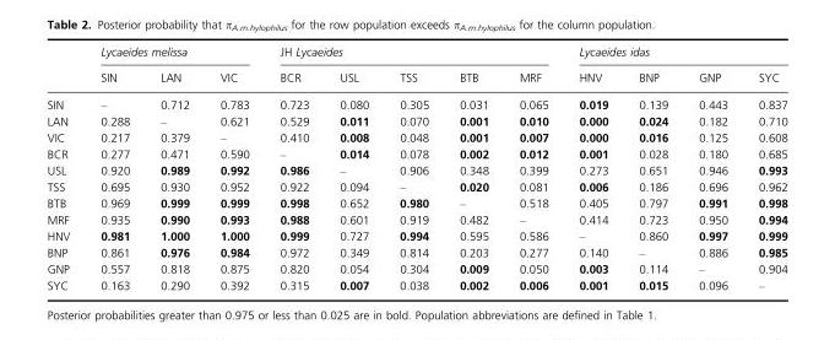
<table><thead><tr><td rowspan="2"></td><td colspan="3">Lycaeides melissa</td><td colspan="5">JH Lycaeides</td><td colspan="4">Lycaeides idas</td></tr><tr><td>SIN</td><td>LAN</td><td>VIC</td><td>BCR</td><td>USL</td><td>TSS</td><td>BTB</td><td>MRF</td><td>HNV</td><td>BNP</td><td>GNP</td><td>SYC</td></tr></thead><tbody><tr><td>SIN</td><td>–</td><td>0.712</td><td>0.783</td><td>0.723</td><td>0.080</td><td>0.305</td><td>0.031</td><td>0.065</td><td>0.019</td><td>0.139</td><td>0.443</td><td>0.837</td></tr><tr><td>LAN</td><td>0.288</td><td>–</td><td>0.621</td><td>0.529</td><td>0.011</td><td>0.070</td><td>0.001</td><td>0.010</td><td>0.000</td><td>0.024</td><td>0.182</td><td>0.710</td></tr><tr><td>VIC</td><td>0.217</td><td>0.379</td><td>–</td><td>0.410</td><td>0.008</td><td>0.048</td><td>0.001</td><td>0.007</td><td>0.000</td><td>0.016</td><td>0.125</td><td>0.608</td></tr><tr><td>BCR</td><td>0.277</td><td>0.471</td><td>0.590</td><td>–</td><td>0.014</td><td>0.078</td><td>0.002</td><td>0.012</td><td>0.001</td><td>0.028</td><td>0.180</td><td>0.685</td></tr><tr><td>USL</td><td>0.920</td><td>0.989</td><td>0.992</td><td>0.986</td><td>–</td><td>0.906</td><td>0.348</td><td>0.399</td><td>0.273</td><td>0.651</td><td>0.946</td><td>0.993</td></tr><tr><td>TSS</td><td>0.695</td><td>0.930</td><td>0.952</td><td>0.922</td><td>0.094</td><td>–</td><td>0.020</td><td>0.081</td><td>0.006</td><td>0.186</td><td>0.696</td><td>0.962</td></tr><tr><td>BTB</td><td>0.969</td><td>0.999</td><td>0.999</td><td>0.998</td><td>0.652</td><td>0.980</td><td>–</td><td>0.518</td><td>0.405</td><td>0.797</td><td>0.991</td><td>0.998</td></tr><tr><td>MRF</td><td>0.935</td><td>0.990</td><td>0.993</td><td>0.988</td><td>0.601</td><td>0.919</td><td>0.482</td><td>–</td><td>0.414</td><td>0.723</td><td>0.950</td><td>0.994</td></tr><tr><td>HNV</td><td>0.981</td><td>1.000</td><td>1.000</td><td>0.999</td><td>0.727</td><td>0.994</td><td>0.595</td><td>0.586</td><td>–</td><td>0.860</td><td>0.997</td><td>0.999</td></tr><tr><td>BNP</td><td>0.861</td><td>0.976</td><td>0.984</td><td>0.972</td><td>0.349</td><td>0.814</td><td>0.203</td><td>0.277</td><td>0.140</td><td>–</td><td>0.886</td><td>0.985</td></tr><tr><td>GNP</td><td>0.557</td><td>0.818</td><td>0.875</td><td>0.820</td><td>0.054</td><td>0.304</td><td>0.009</td><td>0.050</td><td>0.003</td><td>0.114</td><td>–</td><td>0.904</td></tr><tr><td>SYC</td><td>0.163</td><td>0.290</td><td>0.392</td><td>0.315</td><td>0.007</td><td>0.038</td><td>0.002</td><td>0.006</td><td>0.001</td><td>0.015</td><td>0.096</td><td>–</td></tr></tbody></table>